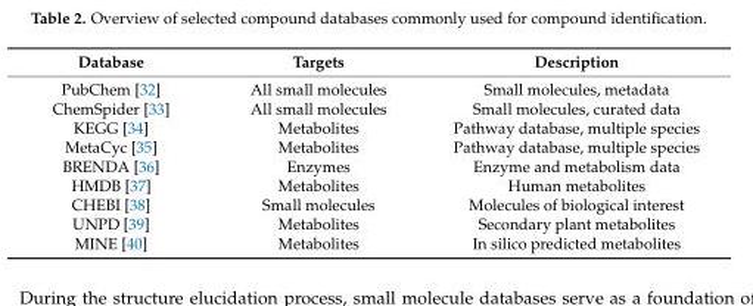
<table><thead><tr><td>Database</td><td>Targets</td><td>Description</td></tr></thead><tbody><tr><td>PubChem [32]</td><td>All small molecules</td><td>Small molecules, metadata</td></tr><tr><td>ChemSpider [33]</td><td>All small molecules</td><td>Small molecules, curated data</td></tr><tr><td>KEGG [34]</td><td>Metabolites</td><td>Pathway database, multiple species</td></tr><tr><td>MetaCyc [35]</td><td>Metabolites</td><td>Pathway database, multiple species</td></tr><tr><td>BRENDA [36]</td><td>Enzymes</td><td>Enzyme and metabolism data</td></tr><tr><td>HMDB [37]</td><td>Metabolites</td><td>Human metabolites</td></tr><tr><td>CHEBI [38]</td><td>Small molecules</td><td>Molecules of biological interest</td></tr><tr><td>UNPD [39]</td><td>Metabolites</td><td>Secondary plant metabolites</td></tr><tr><td>MINE [40]</td><td>Metabolites</td><td>In silico predicted metabolites</td></tr></tbody></table>